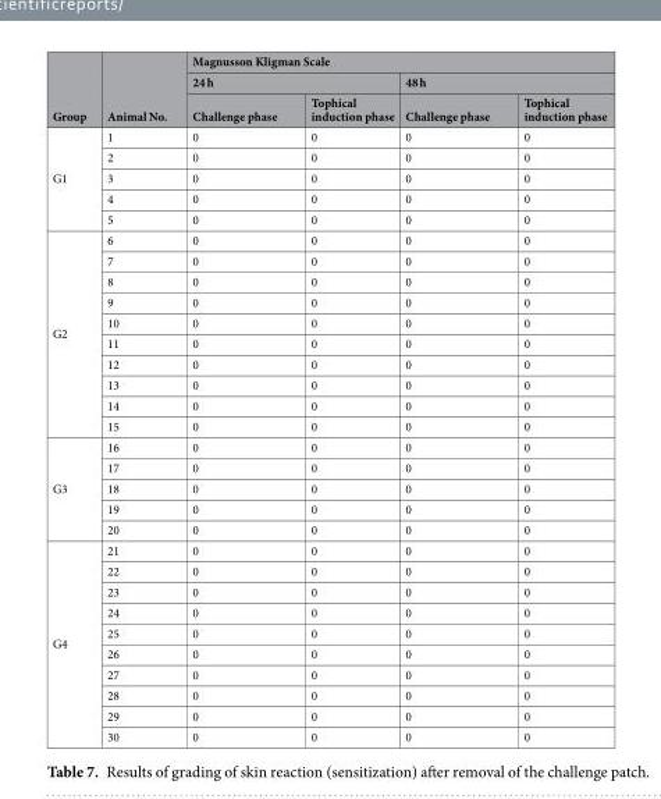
<table><thead><tr><td rowspan="3">Group</td><td rowspan="3">Animal No.</td><td colspan="4">Magnusson Kligman Scale</td></tr><tr><td colspan="2">24 h</td><td colspan="2">48 h</td></tr><tr><td>Challenge phase</td><td>Tophical induction phase</td><td>Challenge phase</td><td>Tophical induction phase</td></tr></thead><tbody><tr><td rowspan="5">G1</td><td>1</td><td>0</td><td>0</td><td>0</td><td>0</td></tr><tr><td>2</td><td>0</td><td>0</td><td>0</td><td>0</td></tr><tr><td>3</td><td>0</td><td>0</td><td>0</td><td>0</td></tr><tr><td>4</td><td>0</td><td>0</td><td>0</td><td>0</td></tr><tr><td>5</td><td>0</td><td>0</td><td>0</td><td>0</td></tr><tr><td rowspan="10">G2</td><td>6</td><td>0</td><td>0</td><td>0</td><td>0</td></tr><tr><td>7</td><td>0</td><td>0</td><td>0</td><td>0</td></tr><tr><td>8</td><td>0</td><td>0</td><td>0</td><td>0</td></tr><tr><td>9</td><td>0</td><td>0</td><td>0</td><td>0</td></tr><tr><td>10</td><td>0</td><td>0</td><td>0</td><td>0</td></tr><tr><td>11</td><td>0</td><td>0</td><td>0</td><td>0</td></tr><tr><td>12</td><td>0</td><td>0</td><td>0</td><td>0</td></tr><tr><td>13</td><td>0</td><td>0</td><td>0</td><td>0</td></tr><tr><td>14</td><td>0</td><td>0</td><td>0</td><td>0</td></tr><tr><td>15</td><td>0</td><td>0</td><td>0</td><td>0</td></tr><tr><td rowspan="5">G3</td><td>16</td><td>0</td><td>0</td><td>0</td><td>0</td></tr><tr><td>17</td><td>0</td><td>0</td><td>0</td><td>0</td></tr><tr><td>18</td><td>0</td><td>0</td><td>0</td><td>0</td></tr><tr><td>19</td><td>0</td><td>0</td><td>0</td><td>0</td></tr><tr><td>20</td><td>0</td><td>0</td><td>0</td><td>0</td></tr><tr><td rowspan="10">G4</td><td>21</td><td>0</td><td>0</td><td>0</td><td>0</td></tr><tr><td>22</td><td>0</td><td>0</td><td>0</td><td>0</td></tr><tr><td>23</td><td>0</td><td>0</td><td>0</td><td>0</td></tr><tr><td>24</td><td>0</td><td>0</td><td>0</td><td>0</td></tr><tr><td>25</td><td>0</td><td>0</td><td>0</td><td>0</td></tr><tr><td>26</td><td>0</td><td>0</td><td>0</td><td>0</td></tr><tr><td>27</td><td>0</td><td>0</td><td>0</td><td>0</td></tr><tr><td>28</td><td>0</td><td>0</td><td>0</td><td>0</td></tr><tr><td>29</td><td>0</td><td>0</td><td>0</td><td>0</td></tr><tr><td>30</td><td>0</td><td>0</td><td>0</td><td>0</td></tr></tbody></table>